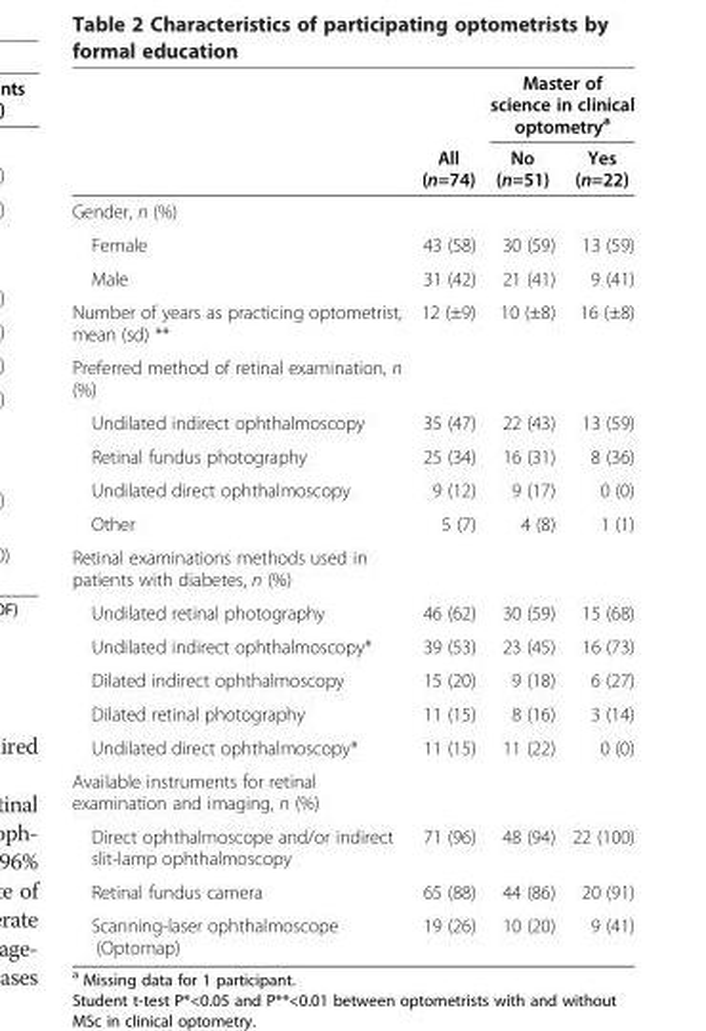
<table><thead><tr><td rowspan="2"></td><td rowspan="2">All (n=74)</td><td colspan="2">Master of science in clinical optometry<sup>a</sup></td></tr><tr><td>No (n=51)</td><td>Yes (n=22)</td></tr></thead><tbody><tr><td colspan="4">Gender, n (%)</td></tr><tr><td>Female</td><td>43 (58)</td><td>30 (59)</td><td>13 (59)</td></tr><tr><td>Male</td><td>31 (42)</td><td>21 (41)</td><td>9 (41)</td></tr><tr><td>Number of years as practicing optometrist, mean (sd) **</td><td>12 (±9)</td><td>10 (±8)</td><td>16 (±8)</td></tr><tr><td colspan="4">Preferred method of retinal examination, n (%)</td></tr><tr><td>Undilated indirect ophthalmoscopy</td><td>35 (47)</td><td>22 (43)</td><td>13 (59)</td></tr><tr><td>Retinal fundus photography</td><td>25 (34)</td><td>16 (31)</td><td>8 (36)</td></tr><tr><td>Undilated direct ophthalmoscopy</td><td>9 (12)</td><td>9 (17)</td><td>0 (0)</td></tr><tr><td>Other</td><td>5 (7)</td><td>4 (8)</td><td>1 (1)</td></tr><tr><td colspan="4">Retinal examinations methods used in patients with diabetes, n (%)</td></tr><tr><td>Undilated retinal photography</td><td>46 (62)</td><td>30 (59)</td><td>15 (68)</td></tr><tr><td>Undilated indirect ophthalmoscopy*</td><td>39 (53)</td><td>23 (45)</td><td>16 (73)</td></tr><tr><td>Dilated indirect ophthalmoscopy</td><td>15 (20)</td><td>9 (18)</td><td>6 (27)</td></tr><tr><td>Dilated retinal photography</td><td>11 (15)</td><td>8 (16)</td><td>3 (14)</td></tr><tr><td>Undilated direct ophthalmoscopy*</td><td>11 (15)</td><td>11 (22)</td><td>0 (0)</td></tr><tr><td colspan="4">Available instruments for retinal examination and imaging, n (%)</td></tr><tr><td>Direct ophthalmoscope and/or indirect slit-lamp ophthalmoscopy</td><td>71 (96)</td><td>48 (94)</td><td>22 (100)</td></tr><tr><td>Retinal fundus camera</td><td>65 (88)</td><td>44 (86)</td><td>20 (91)</td></tr><tr><td>Scanning-laser ophthalmoscope (Optomap)</td><td>19 (26)</td><td>10 (20)</td><td>9 (41)</td></tr></tbody></table>